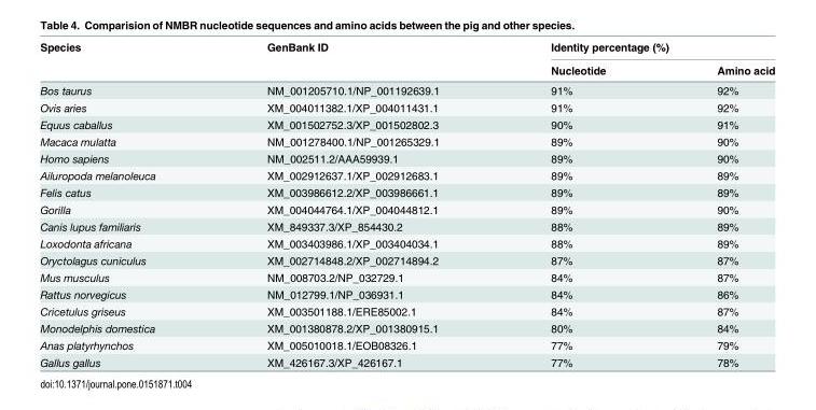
<table><thead><tr><td rowspan="2">Species</td><td rowspan="2">GenBank ID</td><td colspan="2">Identity percentage (%)</td></tr><tr><td>Nucleotide</td><td>Amino acid</td></tr></thead><tbody><tr><td>Bos taurus</td><td>NM_001205710.1/NP_001192639.1</td><td>91%</td><td>92%</td></tr><tr><td>Ovis aries</td><td>XM_004011382.1/XP_004011431.1</td><td>91%</td><td>92%</td></tr><tr><td>Equus caballus</td><td>XM_001502752.3/XP_001502802.3</td><td>90%</td><td>91%</td></tr><tr><td>Macaca mulatta</td><td>NM_001278400.1/NP_001265329.1</td><td>89%</td><td>90%</td></tr><tr><td>Homo sapiens</td><td>NM_002511.2/AAA59939.1</td><td>89%</td><td>90%</td></tr><tr><td>Ailuropoda melanoleuca</td><td>XM_002912637.1/XP_002912683.1</td><td>89%</td><td>89%</td></tr><tr><td>Felis catus</td><td>XM_003986612.2/XP_003986661.1</td><td>89%</td><td>89%</td></tr><tr><td>Gorilla</td><td>XM_004044764.1/XP_004044812.1</td><td>89%</td><td>90%</td></tr><tr><td>Canis lupus familiaris</td><td>XM_849337.3/XP_854430.2</td><td>88%</td><td>89%</td></tr><tr><td>Loxodonta africana</td><td>XM_003403986.1/XP_003404034.1</td><td>88%</td><td>89%</td></tr><tr><td>Oryctolagus cuniculus</td><td>XM_002714848.2/XP_002714894.2</td><td>87%</td><td>87%</td></tr><tr><td>Mus musculus</td><td>NM_008703.2/NP_032729.1</td><td>84%</td><td>87%</td></tr><tr><td>Rattus norvegicus</td><td>NM_012799.1/NP_036931.1</td><td>84%</td><td>86%</td></tr><tr><td>Cricetulus griseus</td><td>XM_003501188.1/ERE85002.1</td><td>84%</td><td>87%</td></tr><tr><td>Monodelphis domestica</td><td>XM_001380878.2/XP_001380915.1</td><td>80%</td><td>84%</td></tr><tr><td>Anas platyrhynchos</td><td>XM_005010018.1/EOB08326.1</td><td>77%</td><td>79%</td></tr><tr><td>Gallus gallus</td><td>XM_426167.3/XP_426167.1</td><td>77%</td><td>78%</td></tr></tbody></table>